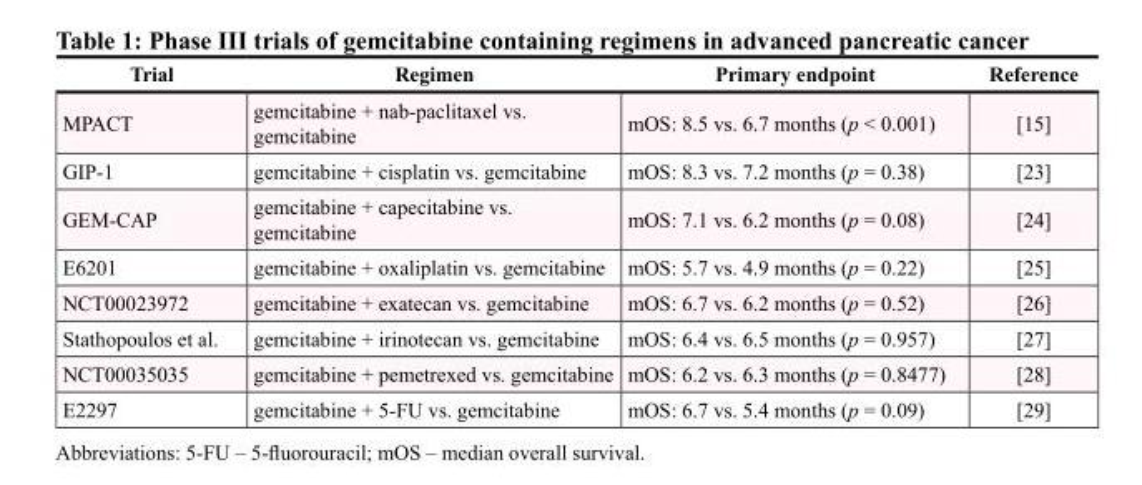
<table><thead><tr><td>Trial</td><td>Regimen</td><td>Primary endpoint</td><td>Reference</td></tr></thead><tbody><tr><td>MPACT</td><td>gemcitabine + nab-paclitaxel vs. gemcitabine</td><td>mOS: 8.5 vs. 6.7 months (p &lt; 0.001)</td><td>[15]</td></tr><tr><td>GIP-1</td><td>gemcitabine + cisplatin vs. gemcitabine</td><td>mOS: 8.3 vs. 7.2 months (p = 0.38)</td><td>[23]</td></tr><tr><td>GEM-CAP</td><td>gemcitabine + capecitabine vs. gemcitabine</td><td>mOS: 7.1 vs. 6.2 months (p = 0.08)</td><td>[24]</td></tr><tr><td>E6201</td><td>gemcitabine + oxaliplatin vs. gemcitabine</td><td>mOS: 5.7 vs. 4.9 months (p = 0.22)</td><td>[25]</td></tr><tr><td>NCT00023972</td><td>gemcitabine + exatecan vs. gemcitabine</td><td>mOS: 6.7 vs. 6.2 months (p = 0.52)</td><td>[26]</td></tr><tr><td>Stathopoulos et al.</td><td>gemcitabine + irinotecan vs. gemcitabine</td><td>mOS: 6.4 vs. 6.5 months (p = 0.957)</td><td>[27]</td></tr><tr><td>NCT00035035</td><td>gemcitabine + pemetrexed vs. gemcitabine</td><td>mOS: 6.2 vs. 6.3 months (p = 0.8477)</td><td>[28]</td></tr><tr><td>E2297</td><td>gemcitabine + 5-FU vs. gemcitabine</td><td>mOS: 6.7 vs. 5.4 months (p = 0.09)</td><td>[29]</td></tr></tbody></table>